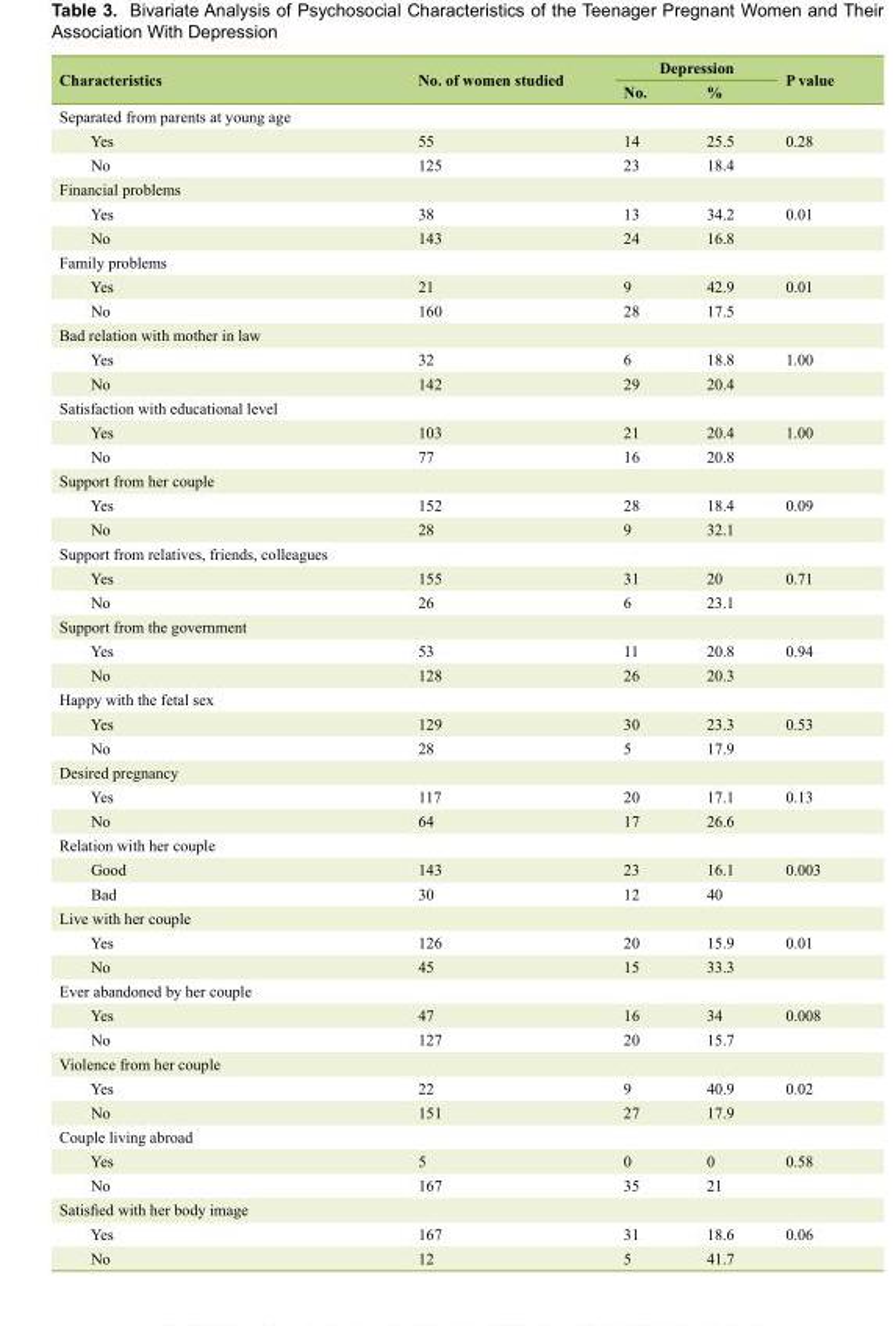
<table><thead><tr><td rowspan="2">Characteristics</td><td rowspan="2">No. of women studied</td><td colspan="2">Depression</td><td rowspan="2">P value</td></tr><tr><td>No.</td><td>%</td></tr></thead><tbody><tr><td colspan="5">Separated from parents at young age</td></tr><tr><td>Yes</td><td>55</td><td>14</td><td>25.5</td><td>0.28</td></tr><tr><td>No</td><td>125</td><td>23</td><td>18.4</td><td></td></tr><tr><td colspan="5">Financial problems</td></tr><tr><td>Yes</td><td>38</td><td>13</td><td>34.2</td><td>0.01</td></tr><tr><td>No</td><td>143</td><td>24</td><td>16.8</td><td></td></tr><tr><td colspan="5">Family problems</td></tr><tr><td>Yes</td><td>21</td><td>9</td><td>42.9</td><td>0.01</td></tr><tr><td>No</td><td>160</td><td>28</td><td>17.5</td><td></td></tr><tr><td colspan="5">Bad relation with mother in law</td></tr><tr><td>Yes</td><td>32</td><td>6</td><td>18.8</td><td>1.00</td></tr><tr><td>No</td><td>142</td><td>29</td><td>20.4</td><td></td></tr><tr><td colspan="5">Satisfaction with educational level</td></tr><tr><td>Yes</td><td>103</td><td>21</td><td>20.4</td><td>1.00</td></tr><tr><td>No</td><td>77</td><td>16</td><td>20.8</td><td></td></tr><tr><td colspan="5">Support from her couple</td></tr><tr><td>Yes</td><td>152</td><td>28</td><td>18.4</td><td>0.09</td></tr><tr><td>No</td><td>28</td><td>9</td><td>32.1</td><td></td></tr><tr><td colspan="5">Support from relatives, friends, colleagues</td></tr><tr><td>Yes</td><td>155</td><td>31</td><td>20</td><td>0.71</td></tr><tr><td>No</td><td>26</td><td>6</td><td>23.1</td><td></td></tr><tr><td colspan="5">Support from the government</td></tr><tr><td>Yes</td><td>53</td><td>11</td><td>20.8</td><td>0.94</td></tr><tr><td>No</td><td>128</td><td>26</td><td>20.3</td><td></td></tr><tr><td colspan="5">Happy with the fetal sex</td></tr><tr><td>Yes</td><td>129</td><td>30</td><td>23.3</td><td>0.53</td></tr><tr><td>No</td><td>28</td><td>5</td><td>17.9</td><td></td></tr><tr><td colspan="5">Desired pregnancy</td></tr><tr><td>Yes</td><td>117</td><td>20</td><td>17.1</td><td>0.13</td></tr><tr><td>No</td><td>64</td><td>17</td><td>26.6</td><td></td></tr><tr><td colspan="5">Relation with her couple</td></tr><tr><td>Good</td><td>143</td><td>23</td><td>16.1</td><td>0.003</td></tr><tr><td>Bad</td><td>30</td><td>12</td><td>40</td><td></td></tr><tr><td colspan="5">Live with her couple</td></tr><tr><td>Yes</td><td>126</td><td>20</td><td>15.9</td><td>0.01</td></tr><tr><td>No</td><td>45</td><td>15</td><td>33.3</td><td></td></tr><tr><td colspan="5">Ever abandoned by her couple</td></tr><tr><td>Yes</td><td>47</td><td>16</td><td>34</td><td>0.008</td></tr><tr><td>No</td><td>127</td><td>20</td><td>15.7</td><td></td></tr><tr><td colspan="5">Violence from her couple</td></tr><tr><td>Yes</td><td>22</td><td>9</td><td>40.9</td><td>0.02</td></tr><tr><td>No</td><td>151</td><td>27</td><td>17.9</td><td></td></tr><tr><td colspan="5">Couple living abroad</td></tr><tr><td>Yes</td><td>5</td><td>0</td><td>0</td><td>0.58</td></tr><tr><td>No</td><td>167</td><td>35</td><td>21</td><td></td></tr><tr><td colspan="5">Satisfied with her body image</td></tr><tr><td>Yes</td><td>167</td><td>31</td><td>18.6</td><td>0.06</td></tr><tr><td>No</td><td>12</td><td>5</td><td>41.7</td><td></td></tr></tbody></table>